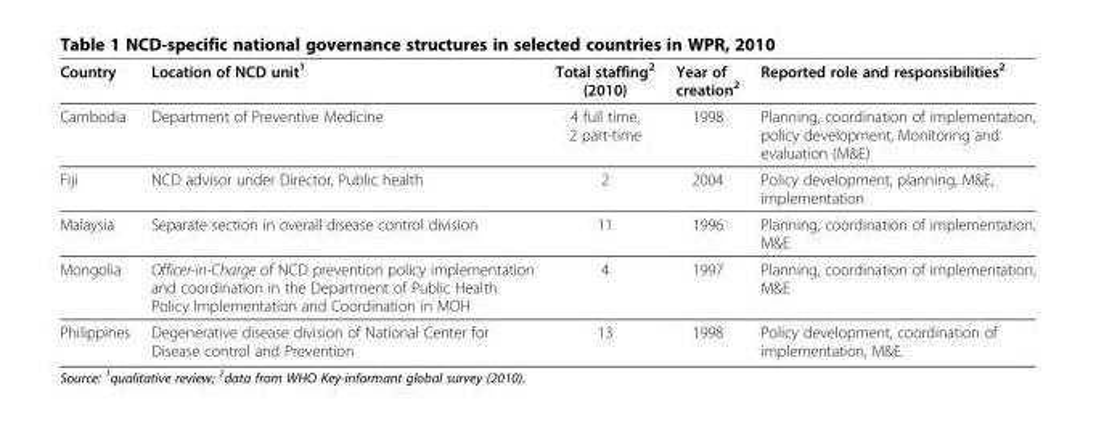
<table><thead><tr><td>Country</td><td>Location of NCD unit<sup>1</sup></td><td>Total staffing<sup>2</sup> (2010)</td><td>Year of creation<sup>2</sup></td><td>Reported role and responsibilities<sup>2</sup></td></tr></thead><tbody><tr><td>Cambodia</td><td>Department of Preventive Medicine</td><td>4 full time, 2 part-time</td><td>1998</td><td>Planning, coordination of implementation, policy development, Monitoring and evaluation (M&amp;E)</td></tr><tr><td>Fiji</td><td>NCD advisor under Director, Public health</td><td>2</td><td>2004</td><td>Policy development, planning, M&amp;E, implementation</td></tr><tr><td>Malaysia</td><td>Separate section in overall disease control division</td><td>11</td><td>1996</td><td>Planning, coordination of implementation, M&amp;E</td></tr><tr><td>Mongolia</td><td>Officer-in-Charge of NCD prevention policy implementation and coordination in the Department of Public Health Policy Implementation and Coordination in MOH</td><td>4</td><td>1997</td><td>Planning, coordination of implementation, M&amp;E</td></tr><tr><td>Philippines</td><td>Degenerative disease division of National Center for Disease control and Prevention</td><td>13</td><td>1998</td><td>Policy development, coordination of implementation, M&amp;E.</td></tr></tbody></table>